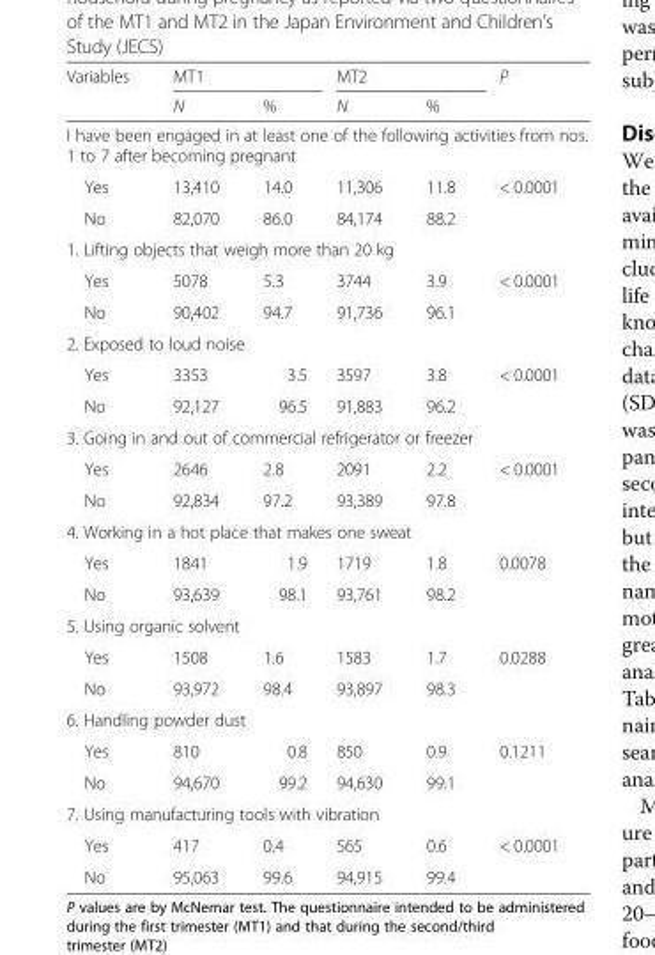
<table><thead><tr><td rowspan="2">Variables</td><td colspan="2">MT1</td><td colspan="2">MT2</td><td rowspan="2">P</td></tr><tr><td>N</td><td>%</td><td>N</td><td>%</td></tr></thead><tbody><tr><td colspan="6">I have been engaged in at least one of the following activities from nos. 1 to 7 after becoming pregnant</td></tr><tr><td>Yes</td><td>13,410</td><td>14.0</td><td>11,306</td><td>11.8</td><td>&lt; 0.0001</td></tr><tr><td>No</td><td>82,070</td><td>86.0</td><td>84,174</td><td>88.2</td><td></td></tr><tr><td colspan="6">1. Lifting objects that weigh more than 20 kg</td></tr><tr><td>Yes</td><td>5078</td><td>5.3</td><td>3744</td><td>3.9</td><td>&lt; 0.0001</td></tr><tr><td>No</td><td>90,402</td><td>94.7</td><td>91,736</td><td>96.1</td><td></td></tr><tr><td colspan="6">2. Exposed to loud noise</td></tr><tr><td>Yes</td><td>3353</td><td>3.5</td><td>3597</td><td>3.8</td><td>&lt; 0.0001</td></tr><tr><td>No</td><td>92,127</td><td>96.5</td><td>91,883</td><td>96.2</td><td></td></tr><tr><td colspan="6">3. Going in and out of commercial refrigerator or freezer</td></tr><tr><td>Yes</td><td>2646</td><td>2.8</td><td>2091</td><td>2.2</td><td>&lt; 0.0001</td></tr><tr><td>No</td><td>92,834</td><td>97.2</td><td>93,389</td><td>97.8</td><td></td></tr><tr><td colspan="6">4. Working in a hot place that makes one sweat</td></tr><tr><td>Yes</td><td>1841</td><td>1.9</td><td>1719</td><td>1.8</td><td>0.0078</td></tr><tr><td>No</td><td>93,639</td><td>98.1</td><td>93,761</td><td>98.2</td><td></td></tr><tr><td colspan="6">5. Using organic solvent</td></tr><tr><td>Yes</td><td>1508</td><td>1.6</td><td>1583</td><td>1.7</td><td>0.0288</td></tr><tr><td>No</td><td>93,972</td><td>98.4</td><td>93,897</td><td>98.3</td><td></td></tr><tr><td colspan="6">6. Handling powder dust</td></tr><tr><td>Yes</td><td>810</td><td>0.8</td><td>850</td><td>0.9</td><td>0.1211</td></tr><tr><td>No</td><td>94,670</td><td>99.2</td><td>94,630</td><td>99.1</td><td></td></tr><tr><td colspan="6">7. Using manufacturing tools with vibration</td></tr><tr><td>Yes</td><td>417</td><td>0.4</td><td>565</td><td>0.6</td><td>&lt; 0.0001</td></tr><tr><td>No</td><td>95,063</td><td>99.6</td><td>94,915</td><td>99.4</td><td></td></tr></tbody></table>